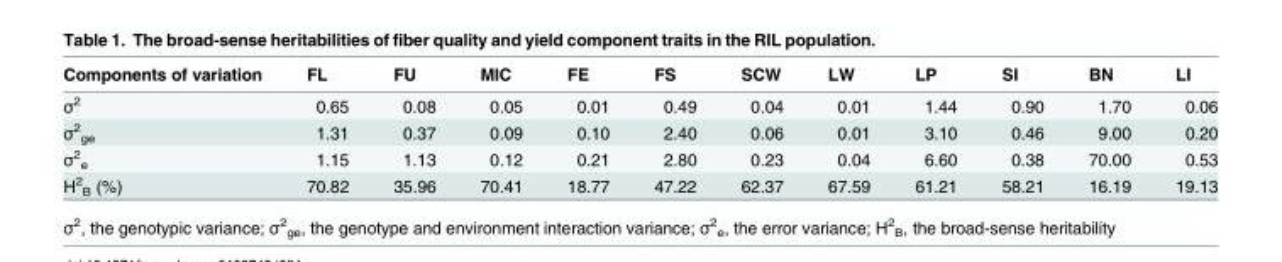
<table><thead><tr><td>Components of variation</td><td>FL</td><td>FU</td><td>MIC</td><td>FE</td><td>FS</td><td>SCW</td><td>LW</td><td>LP</td><td>SI</td><td>BN</td><td>LI</td></tr></thead><tbody><tr><td>σ<sup>2</sup></td><td>0.65</td><td>0.08</td><td>0.05</td><td>0.01</td><td>0.49</td><td>0.04</td><td>0.01</td><td>1.44</td><td>0.90</td><td>1.70</td><td>0.06</td></tr><tr><td>σ<sup>2</sup> <sub>ge</sub></td><td>1.31</td><td>0.37</td><td>0.09</td><td>0.10</td><td>2.40</td><td>0.06</td><td>0.01</td><td>3.10</td><td>0.46</td><td>9.00</td><td>0.20</td></tr><tr><td>σ<sup>2</sup> <sub>e</sub></td><td>1.15</td><td>1.13</td><td>0.12</td><td>0.21</td><td>2.80</td><td>0.23</td><td>0.04</td><td>6.60</td><td>0.38</td><td>70.00</td><td>0.53</td></tr><tr><td>H<sup>2</sup> <sub>B</sub> (%)</td><td>70.82</td><td>35.96</td><td>70.41</td><td>18.77</td><td>47.22</td><td>62.37</td><td>67.59</td><td>61.21</td><td>58.21</td><td>16.19</td><td>19.13</td></tr></tbody></table>